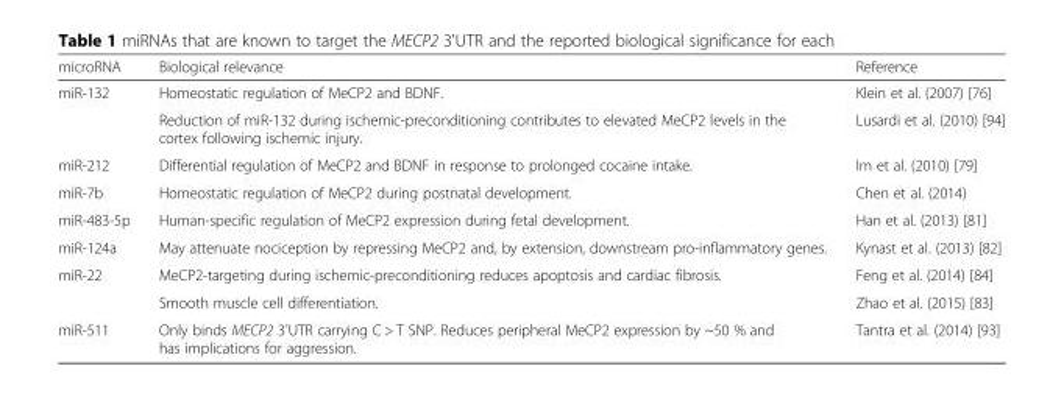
<table><thead><tr><td>microRNA</td><td>Biological relevance</td><td>Reference</td></tr></thead><tbody><tr><td rowspan="2">miR-132</td><td>Homeostatic regulation of MeCP2 and BDNF.</td><td>Klein et al. (2007) [76]</td></tr><tr><td>Reduction of miR-132 during ischemic-preconditioning contributes to elevated MeCP2 levels in the cortex following ischemic injury.</td><td>Lusardi et al. (2010) [94]</td></tr><tr><td>miR-212</td><td>Differential regulation of MeCP2 and BDNF in response to prolonged cocaine intake.</td><td>Im et al. (2010) [79]</td></tr><tr><td>miR-7b</td><td>Homeostatic regulation of MeCP2 during postnatal development.</td><td>Chen et al. (2014)</td></tr><tr><td>miR-483-5p</td><td>Human-specific regulation of MeCP2 expression during fetal development.</td><td>Han et al. (2013) [81]</td></tr><tr><td>miR-124a</td><td>May attenuate nociception by repressing MeCP2 and, by extension, downstream pro-inflammatory genes.</td><td>Kynast et al. (2013) [82]</td></tr><tr><td rowspan="2">miR-22</td><td>MeCP2-targeting during ischemic-preconditioning reduces apoptosis and cardiac fibrosis.</td><td>Feng et al. (2014) [84]</td></tr><tr><td>Smooth muscle cell differentiation.</td><td>Zhao et al. (2015) [83]</td></tr><tr><td>miR-511</td><td>Only binds MECP2 3&#x27;UTR carrying C &gt; T SNP. Reduces peripheral MeCP2 expression by ~50 % and has implications for aggression.</td><td>Tantra et al. (2014) [93]</td></tr></tbody></table>